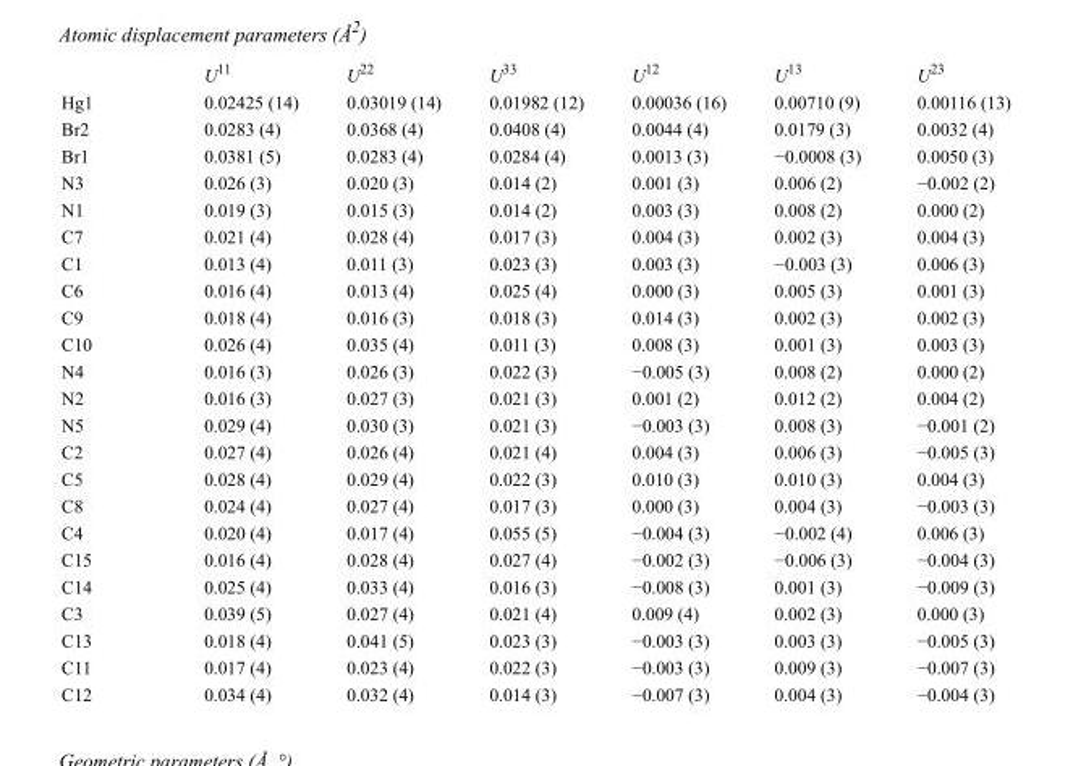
<table><thead><tr><td></td><td>U<sup>11</sup></td><td>U<sup>22</sup></td><td>U<sup>33</sup></td><td>U<sup>12</sup></td><td>U<sup>13</sup></td><td>U<sup>23</sup></td></tr></thead><tbody><tr><td>Hg1</td><td>0.02425 (14)</td><td>0.03019 (14)</td><td>0.01982 (12)</td><td>0.00036 (16)</td><td>0.00710 (9)</td><td>0.00116 (13)</td></tr><tr><td>Br2</td><td>0.0283 (4)</td><td>0.0368 (4)</td><td>0.0408 (4)</td><td>0.0044 (4)</td><td>0.0179 (3)</td><td>0.0032 (4)</td></tr><tr><td>Br1</td><td>0.0381 (5)</td><td>0.0283 (4)</td><td>0.0284 (4)</td><td>0.0013 (3)</td><td>−0.0008 (3)</td><td>0.0050 (3)</td></tr><tr><td>N3</td><td>0.026 (3)</td><td>0.020 (3)</td><td>0.014 (2)</td><td>0.001 (3)</td><td>0.006 (2)</td><td>−0.002 (2)</td></tr><tr><td>N1</td><td>0.019 (3)</td><td>0.015 (3)</td><td>0.014 (2)</td><td>0.003 (3)</td><td>0.008 (2)</td><td>0.000 (2)</td></tr><tr><td>C7</td><td>0.021 (4)</td><td>0.028 (4)</td><td>0.017 (3)</td><td>0.004 (3)</td><td>0.002 (3)</td><td>0.004 (3)</td></tr><tr><td>C1</td><td>0.013 (4)</td><td>0.011 (3)</td><td>0.023 (3)</td><td>0.003 (3)</td><td>−0.003 (3)</td><td>0.006 (3)</td></tr><tr><td>C6</td><td>0.016 (4)</td><td>0.013 (4)</td><td>0.025 (4)</td><td>0.000 (3)</td><td>0.005 (3)</td><td>0.001 (3)</td></tr><tr><td>C9</td><td>0.018 (4)</td><td>0.016 (3)</td><td>0.018 (3)</td><td>0.014 (3)</td><td>0.002 (3)</td><td>0.002 (3)</td></tr><tr><td>C10</td><td>0.026 (4)</td><td>0.035 (4)</td><td>0.011 (3)</td><td>0.008 (3)</td><td>0.001 (3)</td><td>0.003 (3)</td></tr><tr><td>N4</td><td>0.016 (3)</td><td>0.026 (3)</td><td>0.022 (3)</td><td>−0.005 (3)</td><td>0.008 (2)</td><td>0.000 (2)</td></tr><tr><td>N2</td><td>0.016 (3)</td><td>0.027 (3)</td><td>0.021 (3)</td><td>0.001 (2)</td><td>0.012 (2)</td><td>0.004 (2)</td></tr><tr><td>N5</td><td>0.029 (4)</td><td>0.030 (3)</td><td>0.021 (3)</td><td>−0.003 (3)</td><td>0.008 (3)</td><td>−0.001 (2)</td></tr><tr><td>C2</td><td>0.027 (4)</td><td>0.026 (4)</td><td>0.021 (4)</td><td>0.004 (3)</td><td>0.006 (3)</td><td>−0.005 (3)</td></tr><tr><td>C5</td><td>0.028 (4)</td><td>0.029 (4)</td><td>0.022 (3)</td><td>0.010 (3)</td><td>0.010 (3)</td><td>0.004 (3)</td></tr><tr><td>C8</td><td>0.024 (4)</td><td>0.027 (4)</td><td>0.017 (3)</td><td>0.000 (3)</td><td>0.004 (3)</td><td>−0.003 (3)</td></tr><tr><td>C4</td><td>0.020 (4)</td><td>0.017 (4)</td><td>0.055 (5)</td><td>−0.004 (3)</td><td>−0.002 (4)</td><td>0.006 (3)</td></tr><tr><td>C15</td><td>0.016 (4)</td><td>0.028 (4)</td><td>0.027 (4)</td><td>−0.002 (3)</td><td>−0.006 (3)</td><td>−0.004 (3)</td></tr><tr><td>C14</td><td>0.025 (4)</td><td>0.033 (4)</td><td>0.016 (3)</td><td>−0.008 (3)</td><td>0.001 (3)</td><td>−0.009 (3)</td></tr><tr><td>C3</td><td>0.039 (5)</td><td>0.027 (4)</td><td>0.021 (4)</td><td>0.009 (4)</td><td>0.002 (3)</td><td>0.000 (3)</td></tr><tr><td>C13</td><td>0.018 (4)</td><td>0.041 (5)</td><td>0.023 (3)</td><td>−0.003 (3)</td><td>0.003 (3)</td><td>−0.005 (3)</td></tr><tr><td>C11</td><td>0.017 (4)</td><td>0.023 (4)</td><td>0.022 (3)</td><td>−0.003 (3)</td><td>0.009 (3)</td><td>−0.007 (3)</td></tr><tr><td>C12</td><td>0.034 (4)</td><td>0.032 (4)</td><td>0.014 (3)</td><td>−0.007 (3)</td><td>0.004 (3)</td><td>−0.004 (3)</td></tr></tbody></table>